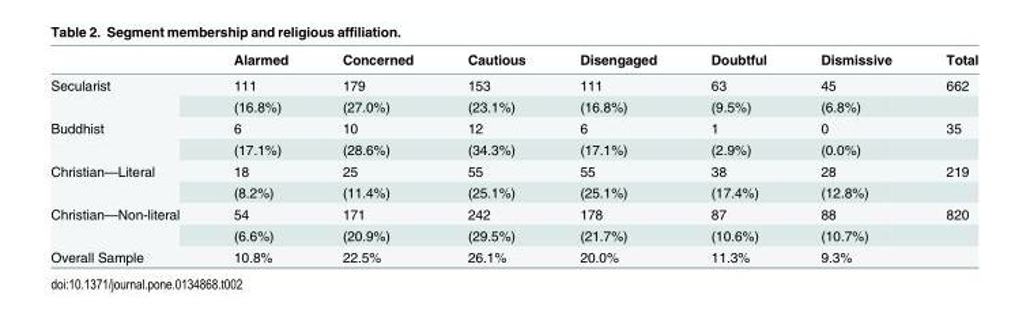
<table><thead><tr><td></td><td>Alarmed</td><td>Concerned</td><td>Cautious</td><td>Disengaged</td><td>Doubtful</td><td>Dismissive</td><td>Total</td></tr></thead><tbody><tr><td rowspan="2">Secularist</td><td>111</td><td>179</td><td>153</td><td>111</td><td>63</td><td>45</td><td>662</td></tr><tr><td>(16.8%)</td><td>(27.0%)</td><td>(23.1%)</td><td>(16.8%)</td><td>(9.5%)</td><td>(6.8%)</td><td></td></tr><tr><td rowspan="2">Buddhist</td><td>6</td><td>10</td><td>12</td><td>6</td><td>1</td><td>0</td><td>35</td></tr><tr><td>(17.1%)</td><td>(28.6%)</td><td>(34.3%)</td><td>(17.1%)</td><td>(2.9%)</td><td>(0.0%)</td><td></td></tr><tr><td rowspan="2">Christian—Literal</td><td>18</td><td>25</td><td>55</td><td>55</td><td>38</td><td>28</td><td>219</td></tr><tr><td>(8.2%)</td><td>(11.4%)</td><td>(25.1%)</td><td>(25.1%)</td><td>(17.4%)</td><td>(12.8%)</td><td></td></tr><tr><td rowspan="2">Christian—Non-literal</td><td>54</td><td>171</td><td>242</td><td>178</td><td>87</td><td>88</td><td>820</td></tr><tr><td>(6.6%)</td><td>(20.9%)</td><td>(29.5%)</td><td>(21.7%)</td><td>(10.6%)</td><td>(10.7%)</td><td></td></tr><tr><td>Overall Sample</td><td>10.8%</td><td>22.5%</td><td>26.1%</td><td>20.0%</td><td>11.3%</td><td>9.3%</td><td></td></tr></tbody></table>